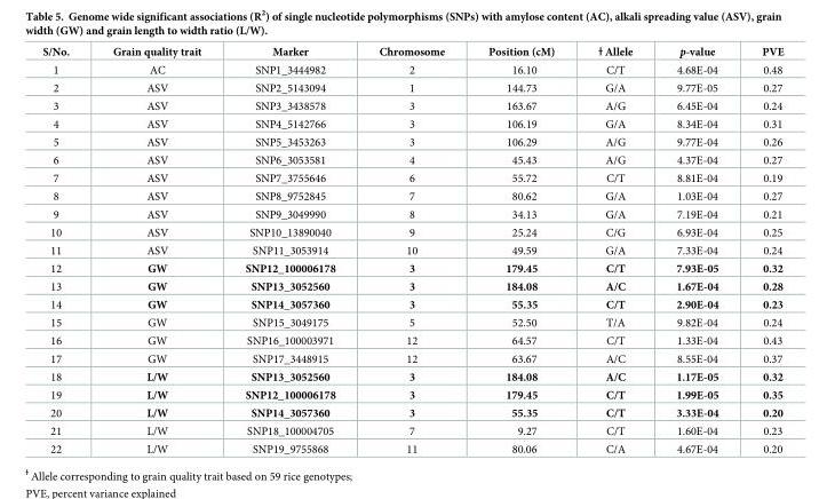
<table><thead><tr><td>S/No.</td><td>Grain quality trait</td><td>Marker</td><td>Chromosome</td><td>Position (cM)</td><td>Ɨ Allele</td><td>p-value</td><td>PVE</td></tr></thead><tbody><tr><td>1</td><td>AC</td><td>SNP1_3444982</td><td>2</td><td>16.10</td><td>C/T</td><td>4.68E-04</td><td>0.48</td></tr><tr><td>2</td><td>ASV</td><td>SNP2_5143094</td><td>1</td><td>144.73</td><td>G/A</td><td>9.77E-05</td><td>0.27</td></tr><tr><td>3</td><td>ASV</td><td>SNP3_3438578</td><td>3</td><td>163.67</td><td>A/G</td><td>6.45E-04</td><td>0.24</td></tr><tr><td>4</td><td>ASV</td><td>SNP4_5142766</td><td>3</td><td>106.19</td><td>G/A</td><td>8.34E-04</td><td>0.31</td></tr><tr><td>5</td><td>ASV</td><td>SNP5_3453263</td><td>3</td><td>106.29</td><td>A/G</td><td>9.77E-04</td><td>0.26</td></tr><tr><td>6</td><td>ASV</td><td>SNP6_3053581</td><td>4</td><td>45.43</td><td>A/G</td><td>4.37E-04</td><td>0.27</td></tr><tr><td>7</td><td>ASV</td><td>SNP7_3755646</td><td>6</td><td>55.72</td><td>C/T</td><td>8.81E-04</td><td>0.19</td></tr><tr><td>8</td><td>ASV</td><td>SNP8_9752845</td><td>7</td><td>80.62</td><td>G/A</td><td>1.03E-04</td><td>0.27</td></tr><tr><td>9</td><td>ASV</td><td>SNP9_3049990</td><td>8</td><td>34.13</td><td>G/A</td><td>7.19E-04</td><td>0.21</td></tr><tr><td>10</td><td>ASV</td><td>SNP10_13890040</td><td>9</td><td>25.24</td><td>C/G</td><td>6.93E-04</td><td>0.25</td></tr><tr><td>11</td><td>ASV</td><td>SNP11_3053914</td><td>10</td><td>49.59</td><td>G/A</td><td>7.33E-04</td><td>0.24</td></tr><tr><td>12</td><td>GW</td><td>SNP12_100006178</td><td>3</td><td>179.45</td><td>C/T</td><td>7.93E-05</td><td>0.32</td></tr><tr><td>13</td><td>GW</td><td>SNP13_3052560</td><td>3</td><td>184.08</td><td>A/C</td><td>1.67E-04</td><td>0.28</td></tr><tr><td>14</td><td>GW</td><td>SNP14_3057360</td><td>3</td><td>55.35</td><td>C/T</td><td>2.90E-04</td><td>0.23</td></tr><tr><td>15</td><td>GW</td><td>SNP15_3049175</td><td>5</td><td>52.50</td><td>T/A</td><td>9.82E-04</td><td>0.24</td></tr><tr><td>16</td><td>GW</td><td>SNP16_100003971</td><td>12</td><td>64.57</td><td>C/T</td><td>1.33E-04</td><td>0.43</td></tr><tr><td>17</td><td>GW</td><td>SNP17_3448915</td><td>12</td><td>63.67</td><td>A/C</td><td>8.55E-04</td><td>0.37</td></tr><tr><td>18</td><td>L/W</td><td>SNP13_3052560</td><td>3</td><td>184.08</td><td>A/C</td><td>1.17E-05</td><td>0.32</td></tr><tr><td>19</td><td>L/W</td><td>SNP12_100006178</td><td>3</td><td>179.45</td><td>C/T</td><td>1.99E-05</td><td>0.35</td></tr><tr><td>20</td><td>L/W</td><td>SNP14_3057360</td><td>3</td><td>55.35</td><td>C/T</td><td>3.33E-04</td><td>0.20</td></tr><tr><td>21</td><td>L/W</td><td>SNP18_100004705</td><td>7</td><td>9.27</td><td>C/T</td><td>1.60E-04</td><td>0.23</td></tr><tr><td>22</td><td>L/W</td><td>SNP19_9755868</td><td>11</td><td>80.06</td><td>C/A</td><td>4.67E-04</td><td>0.20</td></tr></tbody></table>